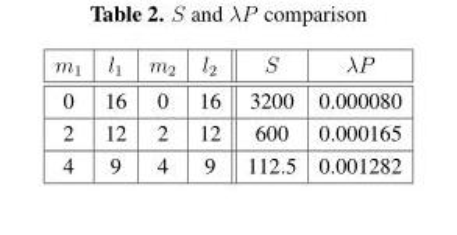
<table><thead><tr><td>m<sub>1</sub></td><td>l<sub>1</sub></td><td>m<sub>2</sub></td><td>l<sub>2</sub></td><td>S</td><td>λP</td></tr></thead><tbody><tr><td>0</td><td>16</td><td>0</td><td>16</td><td>3200</td><td>0.000080</td></tr><tr><td>2</td><td>12</td><td>2</td><td>12</td><td>600</td><td>0.000165</td></tr><tr><td>4</td><td>9</td><td>4</td><td>9</td><td>112.5</td><td>0.001282</td></tr></tbody></table>